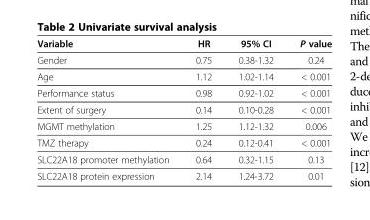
<table><thead><tr><td>Variable</td><td>HR</td><td>95% CI</td><td>P value</td></tr></thead><tbody><tr><td>Gender</td><td>0.75</td><td>0.38-1.32</td><td>0.24</td></tr><tr><td>Age</td><td>1.12</td><td>1.02-1.14</td><td>&lt; 0.001</td></tr><tr><td>Performance status</td><td>0.98</td><td>0.92-1.02</td><td>&lt; 0.001</td></tr><tr><td>Extent of surgery</td><td>0.14</td><td>0.10-0.28</td><td>&lt; 0.001</td></tr><tr><td>MGMT methylation</td><td>1.25</td><td>1.12-1.32</td><td>0.006</td></tr><tr><td>TMZ therapy</td><td>0.24</td><td>0.12-0.41</td><td>&lt; 0.001</td></tr><tr><td>SLC22A18 promoter methylation</td><td>0.64</td><td>0.32-1.15</td><td>0.13</td></tr><tr><td>SLC22A18 protein expression</td><td>2.14</td><td>1.24-3.72</td><td>0.01</td></tr></tbody></table>